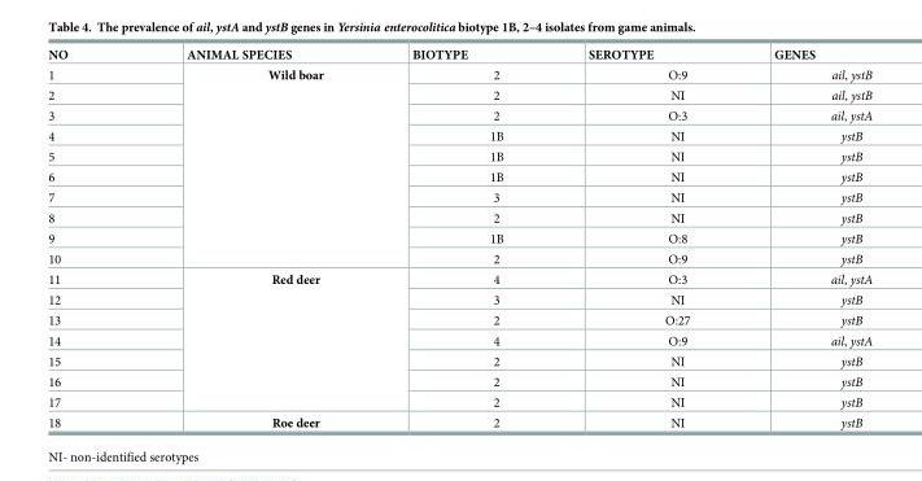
<table><thead><tr><td>NO</td><td>ANIMAL SPECIES</td><td>BIOTYPE</td><td>SEROTYPE</td><td>GENES</td></tr></thead><tbody><tr><td>1</td><td rowspan="10">Wild boar</td><td>2</td><td>O:9</td><td>ail, ystB</td></tr><tr><td>2</td><td>2</td><td>NI</td><td>ail, ystB</td></tr><tr><td>3</td><td>2</td><td>O:3</td><td>ail, ystA</td></tr><tr><td>4</td><td>1B</td><td>NI</td><td>ystB</td></tr><tr><td>5</td><td>1B</td><td>NI</td><td>ystB</td></tr><tr><td>6</td><td>1B</td><td>NI</td><td>ystB</td></tr><tr><td>7</td><td>3</td><td>NI</td><td>ystB</td></tr><tr><td>8</td><td>2</td><td>NI</td><td>ystB</td></tr><tr><td>9</td><td>1B</td><td>O:8</td><td>ystB</td></tr><tr><td>10</td><td>2</td><td>O:9</td><td>ystB</td></tr><tr><td>11</td><td rowspan="7">Red deer</td><td>4</td><td>O:3</td><td>ail, ystA</td></tr><tr><td>12</td><td>3</td><td>NI</td><td>ystB</td></tr><tr><td>13</td><td>2</td><td>O:27</td><td>ystB</td></tr><tr><td>14</td><td>4</td><td>O:9</td><td>ail, ystA</td></tr><tr><td>15</td><td>2</td><td>NI</td><td>ystB</td></tr><tr><td>16</td><td>2</td><td>NI</td><td>ystB</td></tr><tr><td>17</td><td>2</td><td>NI</td><td>ystB</td></tr><tr><td>18</td><td>Roe deer</td><td>2</td><td>NI</td><td>ystB</td></tr></tbody></table>